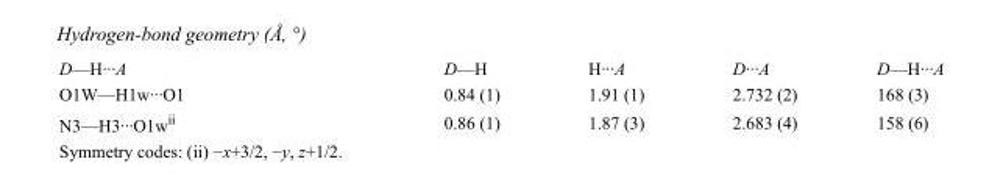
<table><tbody><tr><td>D—H···A</td><td>D—H</td><td>H···A</td><td>D···A</td><td>D—H···A</td></tr><tr><td>O1W—H1w···O1</td><td>0.84 (1)</td><td>1.91 (1)</td><td>2.732 (2)</td><td>168 (3)</td></tr><tr><td>N3—H3···O1w<sup>ii</sup></td><td>0.86 (1)</td><td>1.87 (3)</td><td>2.683 (4)</td><td>158 (6)</td></tr></tbody></table>